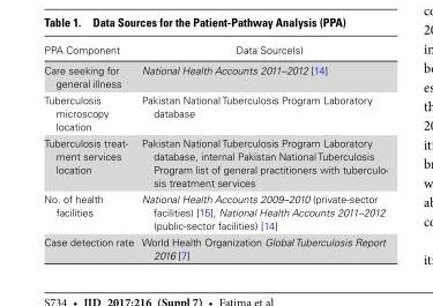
<table><thead><tr><td>PPA Component</td><td>Data Source(s)</td></tr></thead><tbody><tr><td>Care seeking for general illness</td><td>National Health Accounts 2011–2012 [14]</td></tr><tr><td>Tuberculosis microscopy location</td><td>Pakistan National Tuberculosis Program Laboratory database</td></tr><tr><td>Tuberculosis treat- ment services location</td><td>Pakistan National Tuberculosis Program Laboratory database, internal Pakistan National Tuberculosis Program list of general practitioners with tuberculo- sis treatment services</td></tr><tr><td>No. of health facilities</td><td>National Health Accounts 2009–2010 (private-sector facilities) [15], National Health Accounts 2011–2012 (public-sector facilities) [14]</td></tr><tr><td>Case detection rate</td><td>World Health Organization Global Tuberculosis Report 2016 [7]</td></tr></tbody></table>